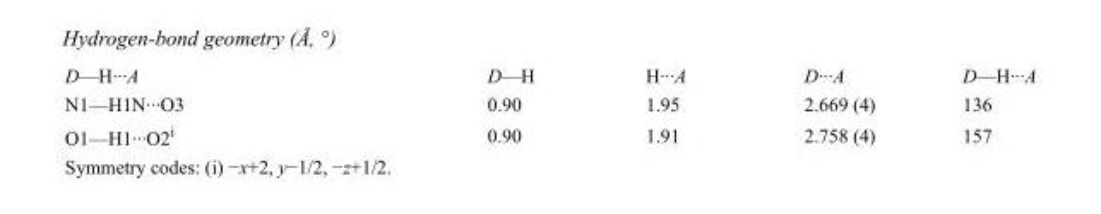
<table><tbody><tr><td>D—H···A</td><td>D—H</td><td>H···A</td><td>D···A</td><td>D—H···A</td></tr><tr><td>N1—H1N···O3</td><td>0.90</td><td>1.95</td><td>2.669 (4)</td><td>136</td></tr><tr><td>O1—H1···O2<sup>i</sup></td><td>0.90</td><td>1.91</td><td>2.758 (4)</td><td>157</td></tr></tbody></table>